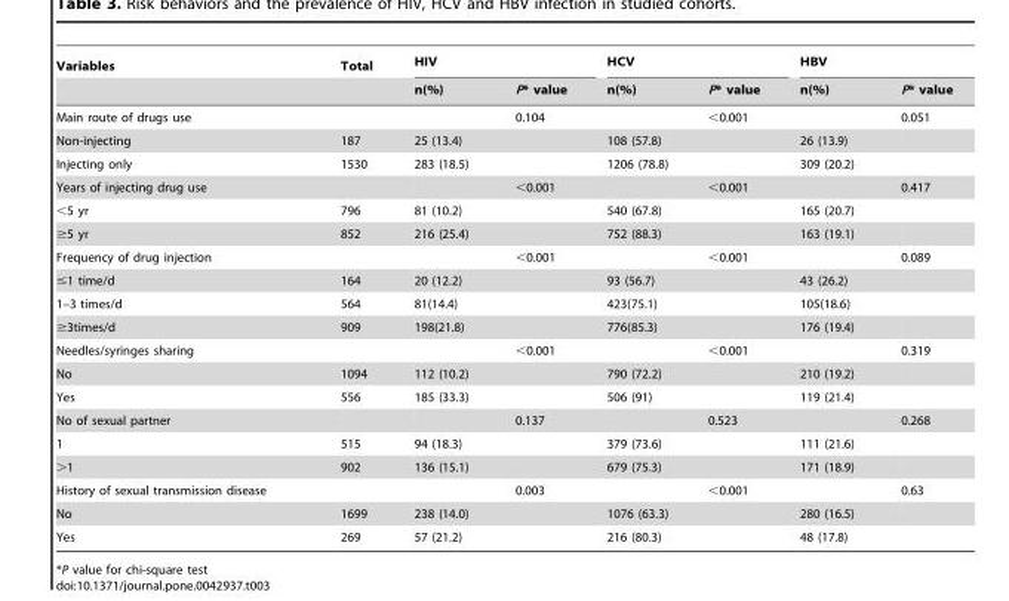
<table><thead><tr><td rowspan="2">Variables</td><td rowspan="2">Total</td><td colspan="2">HIV</td><td colspan="2">HCV</td><td colspan="2">HBV</td></tr><tr><td>n(%)</td><td>P* value</td><td>n(%)</td><td>P* value</td><td>n(%)</td><td>P* value</td></tr></thead><tbody><tr><td>Main route of drugs use</td><td></td><td></td><td>0.104</td><td></td><td>&lt;0.001</td><td></td><td>0.051</td></tr><tr><td>Non-injecting</td><td>187</td><td>25 (13.4)</td><td></td><td>108 (57.8)</td><td></td><td>26 (13.9)</td><td></td></tr><tr><td>Injecting only</td><td>1530</td><td>283 (18.5)</td><td></td><td>1206 (78.8)</td><td></td><td>309 (20.2)</td><td></td></tr><tr><td>Years of injecting drug use</td><td></td><td></td><td>&lt;0.001</td><td></td><td>&lt;0.001</td><td></td><td>0.417</td></tr><tr><td>&lt;5 yr</td><td>796</td><td>81 (10.2)</td><td></td><td>540 (67.8)</td><td></td><td>165 (20.7)</td><td></td></tr><tr><td>≥5 yr</td><td>852</td><td>216 (25.4)</td><td></td><td>752 (88.3)</td><td></td><td>163 (19.1)</td><td></td></tr><tr><td>Frequency of drug injection</td><td></td><td></td><td>&lt;0.001</td><td></td><td>&lt;0.001</td><td></td><td>0.089</td></tr><tr><td>≤1 time/d</td><td>164</td><td>20 (12.2)</td><td></td><td>93 (56.7)</td><td></td><td>43 (26.2)</td><td></td></tr><tr><td>1–3 times/d</td><td>564</td><td>81(14.4)</td><td></td><td>423(75.1)</td><td></td><td>105(18.6)</td><td></td></tr><tr><td>≥3times/d</td><td>909</td><td>198(21.8)</td><td></td><td>776(85.3)</td><td></td><td>176 (19.4)</td><td></td></tr><tr><td>Needles/syringes sharing</td><td></td><td></td><td>&lt;0.001</td><td></td><td>&lt;0.001</td><td></td><td>0.319</td></tr><tr><td>No</td><td>1094</td><td>112 (10.2)</td><td></td><td>790 (72.2)</td><td></td><td>210 (19.2)</td><td></td></tr><tr><td>Yes</td><td>556</td><td>185 (33.3)</td><td></td><td>506 (91)</td><td></td><td>119 (21.4)</td><td></td></tr><tr><td>No of sexual partner</td><td></td><td></td><td>0.137</td><td></td><td>0.523</td><td></td><td>0.268</td></tr><tr><td>1</td><td>515</td><td>94 (18.3)</td><td></td><td>379 (73.6)</td><td></td><td>111 (21.6)</td><td></td></tr><tr><td>&gt;1</td><td>902</td><td>136 (15.1)</td><td></td><td>679 (75.3)</td><td></td><td>171 (18.9)</td><td></td></tr><tr><td>History of sexual transmission disease</td><td></td><td></td><td>0.003</td><td></td><td>&lt;0.001</td><td></td><td>0.63</td></tr><tr><td>No</td><td>1699</td><td>238 (14.0)</td><td></td><td>1076 (63.3)</td><td></td><td>280 (16.5)</td><td></td></tr><tr><td>Yes</td><td>269</td><td>57 (21.2)</td><td></td><td>216 (80.3)</td><td></td><td>48 (17.8)</td><td></td></tr></tbody></table>